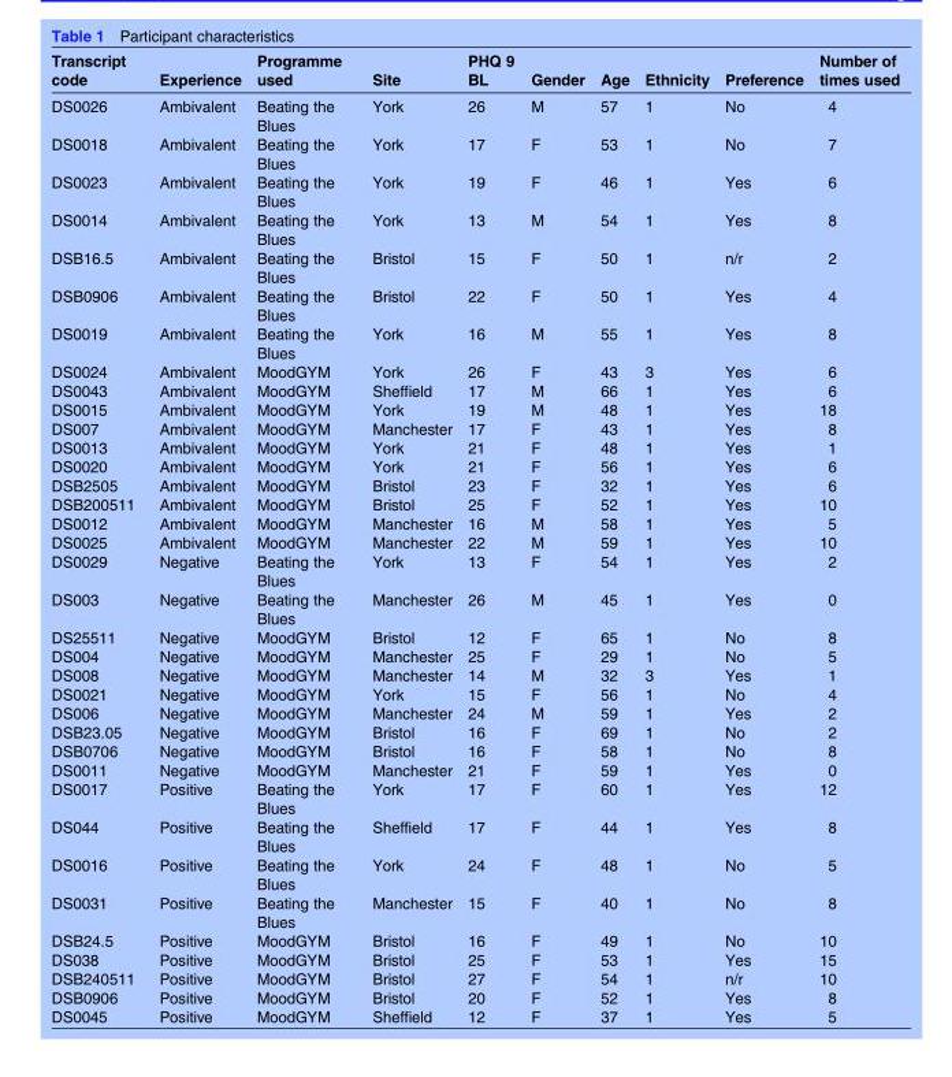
<table><thead><tr><td>Transcript code</td><td>Experience</td><td>Programme used</td><td>Site</td><td>PHQ 9 BL</td><td>Gender</td><td>Age</td><td>Ethnicity</td><td>Preference</td><td>Number of times used</td></tr></thead><tbody><tr><td>DS0026</td><td>Ambivalent</td><td>Beating the Blues</td><td>York</td><td>26</td><td>M</td><td>57</td><td>1</td><td>No</td><td>4</td></tr><tr><td>DS0018</td><td>Ambivalent</td><td>Beating the Blues</td><td>York</td><td>17</td><td>F</td><td>53</td><td>1</td><td>No</td><td>7</td></tr><tr><td>DS0023</td><td>Ambivalent</td><td>Beating the Blues</td><td>York</td><td>19</td><td>F</td><td>46</td><td>1</td><td>Yes</td><td>6</td></tr><tr><td>DS0014</td><td>Ambivalent</td><td>Beating the Blues</td><td>York</td><td>13</td><td>M</td><td>54</td><td>1</td><td>Yes</td><td>8</td></tr><tr><td>DSB16.5</td><td>Ambivalent</td><td>Beating the Blues</td><td>Bristol</td><td>15</td><td>F</td><td>50</td><td>1</td><td>n/r</td><td>2</td></tr><tr><td>DSB0906</td><td>Ambivalent</td><td>Beating the Blues</td><td>Bristol</td><td>22</td><td>F</td><td>50</td><td>1</td><td>Yes</td><td>4</td></tr><tr><td>DS0019</td><td>Ambivalent</td><td>Beating the Blues</td><td>York</td><td>16</td><td>M</td><td>55</td><td>1</td><td>Yes</td><td>8</td></tr><tr><td>DS0024</td><td>Ambivalent</td><td>MoodGYM</td><td>York</td><td>26</td><td>F</td><td>43</td><td>3</td><td>Yes</td><td>6</td></tr><tr><td>DS0043</td><td>Ambivalent</td><td>MoodGYM</td><td>Sheffield</td><td>17</td><td>M</td><td>66</td><td>1</td><td>Yes</td><td>6</td></tr><tr><td>DS0015</td><td>Ambivalent</td><td>MoodGYM</td><td>York</td><td>19</td><td>M</td><td>48</td><td>1</td><td>Yes</td><td>18</td></tr><tr><td>DS007</td><td>Ambivalent</td><td>MoodGYM</td><td>Manchester</td><td>17</td><td>F</td><td>43</td><td>1</td><td>Yes</td><td>8</td></tr><tr><td>DS0013</td><td>Ambivalent</td><td>MoodGYM</td><td>York</td><td>21</td><td>F</td><td>48</td><td>1</td><td>Yes</td><td>1</td></tr><tr><td>DS0020</td><td>Ambivalent</td><td>MoodGYM</td><td>York</td><td>21</td><td>F</td><td>56</td><td>1</td><td>Yes</td><td>6</td></tr><tr><td>DSB2505</td><td>Ambivalent</td><td>MoodGYM</td><td>Bristol</td><td>23</td><td>F</td><td>32</td><td>1</td><td>Yes</td><td>6</td></tr><tr><td>DSB200511</td><td>Ambivalent</td><td>MoodGYM</td><td>Bristol</td><td>25</td><td>F</td><td>52</td><td>1</td><td>Yes</td><td>10</td></tr><tr><td>DS0012</td><td>Ambivalent</td><td>MoodGYM</td><td>Manchester</td><td>16</td><td>M</td><td>58</td><td>1</td><td>Yes</td><td>5</td></tr><tr><td>DS0025</td><td>Ambivalent</td><td>MoodGYM</td><td>Manchester</td><td>22</td><td>M</td><td>59</td><td>1</td><td>Yes</td><td>10</td></tr><tr><td>DS0029</td><td>Negative</td><td>Beating the Blues</td><td>York</td><td>13</td><td>F</td><td>54</td><td>1</td><td>Yes</td><td>2</td></tr><tr><td>DS003</td><td>Negative</td><td>Beating the Blues</td><td>Manchester</td><td>26</td><td>M</td><td>45</td><td>1</td><td>Yes</td><td>0</td></tr><tr><td>DS25511</td><td>Negative</td><td>MoodGYM</td><td>Bristol</td><td>12</td><td>F</td><td>65</td><td>1</td><td>No</td><td>8</td></tr><tr><td>DS004</td><td>Negative</td><td>MoodGYM</td><td>Manchester</td><td>25</td><td>F</td><td>29</td><td>1</td><td>No</td><td>5</td></tr><tr><td>DS008</td><td>Negative</td><td>MoodGYM</td><td>Manchester</td><td>14</td><td>M</td><td>32</td><td>3</td><td>Yes</td><td>1</td></tr><tr><td>DS0021</td><td>Negative</td><td>MoodGYM</td><td>York</td><td>15</td><td>F</td><td>56</td><td>1</td><td>No</td><td>4</td></tr><tr><td>DS006</td><td>Negative</td><td>MoodGYM</td><td>Manchester</td><td>24</td><td>M</td><td>59</td><td>1</td><td>Yes</td><td>2</td></tr><tr><td>DSB23.05</td><td>Negative</td><td>MoodGYM</td><td>Bristol</td><td>16</td><td>F</td><td>69</td><td>1</td><td>No</td><td>2</td></tr><tr><td>DSB0706</td><td>Negative</td><td>MoodGYM</td><td>Bristol</td><td>16</td><td>F</td><td>58</td><td>1</td><td>No</td><td>8</td></tr><tr><td>DS0011</td><td>Negative</td><td>MoodGYM</td><td>Manchester</td><td>21</td><td>F</td><td>59</td><td>1</td><td>Yes</td><td>0</td></tr><tr><td>DS0017</td><td>Positive</td><td>Beating the Blues</td><td>York</td><td>17</td><td>F</td><td>60</td><td>1</td><td>Yes</td><td>12</td></tr><tr><td>DS044</td><td>Positive</td><td>Beating the Blues</td><td>Sheffield</td><td>17</td><td>F</td><td>44</td><td>1</td><td>Yes</td><td>8</td></tr><tr><td>DS0016</td><td>Positive</td><td>Beating the Blues</td><td>York</td><td>24</td><td>F</td><td>48</td><td>1</td><td>No</td><td>5</td></tr><tr><td>DS0031</td><td>Positive</td><td>Beating the Blues</td><td>Manchester</td><td>15</td><td>F</td><td>40</td><td>1</td><td>No</td><td>8</td></tr><tr><td>DSB24.5</td><td>Positive</td><td>MoodGYM</td><td>Bristol</td><td>16</td><td>F</td><td>49</td><td>1</td><td>No</td><td>10</td></tr><tr><td>DS038</td><td>Positive</td><td>MoodGYM</td><td>Bristol</td><td>25</td><td>F</td><td>53</td><td>1</td><td>Yes</td><td>15</td></tr><tr><td>DSB240511</td><td>Positive</td><td>MoodGYM</td><td>Bristol</td><td>27</td><td>F</td><td>54</td><td>1</td><td>n/r</td><td>10</td></tr><tr><td>DSB0906</td><td>Positive</td><td>MoodGYM</td><td>Bristol</td><td>20</td><td>F</td><td>52</td><td>1</td><td>Yes</td><td>8</td></tr><tr><td>DS0045</td><td>Positive</td><td>MoodGYM</td><td>Sheffield</td><td>12</td><td>F</td><td>37</td><td>1</td><td>Yes</td><td>5</td></tr></tbody></table>